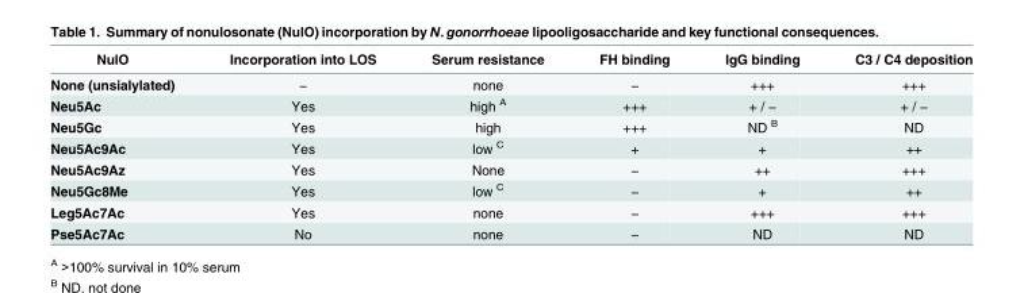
<table><thead><tr><td>NulO</td><td>Incorporation into LOS</td><td>Serum resistance</td><td>FH binding</td><td>IgG binding</td><td>C3 / C4 deposition</td></tr></thead><tbody><tr><td>None (unsialylated)</td><td>−</td><td>none</td><td>−</td><td>+++</td><td>+++</td></tr><tr><td>Neu5Ac</td><td>Yes</td><td>high <sup>A</sup></td><td>+++</td><td>+ / −</td><td>+ / −</td></tr><tr><td>Neu5Gc</td><td>Yes</td><td>high</td><td>+++</td><td>ND <sup>B</sup></td><td>ND</td></tr><tr><td>Neu5Ac9Ac</td><td>Yes</td><td>low <sup>C</sup></td><td>+</td><td>+</td><td>++</td></tr><tr><td>Neu5Ac9Az</td><td>Yes</td><td>None</td><td>−</td><td>++</td><td>+++</td></tr><tr><td>Neu5Gc8Me</td><td>Yes</td><td>low <sup>C</sup></td><td>−</td><td>+</td><td>++</td></tr><tr><td>Leg5Ac7Ac</td><td>Yes</td><td>none</td><td>−</td><td>+++</td><td>+++</td></tr><tr><td>Pse5Ac7Ac</td><td>No</td><td>none</td><td>−</td><td>ND</td><td>ND</td></tr></tbody></table>